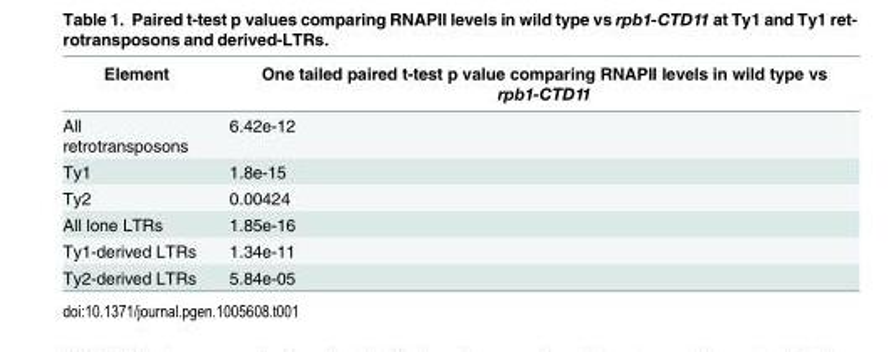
<table><thead><tr><td>Element</td><td>One tailed paired t-test p value comparing RNAPII levels in wild type vs rpb1-CTD11</td></tr></thead><tbody><tr><td>All retrotransposons</td><td>6.42e-12</td></tr><tr><td>Ty1</td><td>1.8e-15</td></tr><tr><td>Ty2</td><td>0.00424</td></tr><tr><td>All lone LTRs</td><td>1.85e-16</td></tr><tr><td>Ty1-derived LTRs</td><td>1.34e-11</td></tr><tr><td>Ty2-derived LTRs</td><td>5.84e-05</td></tr></tbody></table>